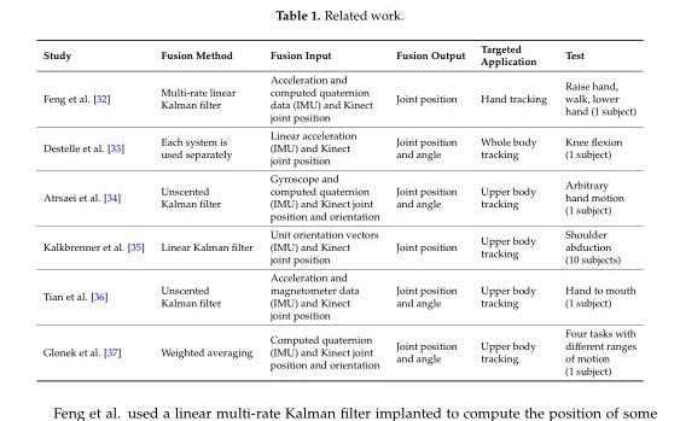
<table><thead><tr><td>Study</td><td>Fusion Method</td><td>Fusion Input</td><td>Fusion Output</td><td>Targeted Application</td><td>Test</td></tr></thead><tbody><tr><td>Feng et al. [32]</td><td>Multi-rate linear Kalman filter</td><td>Acceleration and computed quaternion data (IMU) and Kinect joint position</td><td>Joint position</td><td>Hand tracking</td><td>Raise hand, walk, lower hand (1 subject)</td></tr><tr><td>Destelle et al. [33]</td><td>Each system is used separately</td><td>Linear acceleration (IMU) and Kinect joint position</td><td>Joint position and angle</td><td>Whole body tracking</td><td>Knee flexion (1 subject)</td></tr><tr><td>Atrsaei et al. [34]</td><td>Unscented Kalman filter</td><td>Gyroscope and computed quaternion (IMU) and Kinect joint position and orientation</td><td>Joint position and angle</td><td>Upper body tracking</td><td>Arbitrary hand motion (1 subject)</td></tr><tr><td>Kalkbrenner et al. [35]</td><td>Linear Kalman filter</td><td>Unit orientation vectors (IMU) and Kinect joint position</td><td>Joint position</td><td>Upper body tracking</td><td>Shoulder abduction (10 subjects)</td></tr><tr><td>Tian et al. [36]</td><td>Unscented Kalman filter</td><td>Acceleration and magnetometer data (IMU) and Kinect joint position</td><td>Joint position and angle</td><td>Upper body tracking</td><td>Hand to mouth (1 subject)</td></tr><tr><td>Glonek et al. [37]</td><td>Weighted averaging</td><td>Computed quaternion (IMU) and Kinect joint position and orientation</td><td>Joint position and angle</td><td>Upper body tracking</td><td>Four tasks with different ranges of motion (1 subject)</td></tr></tbody></table>